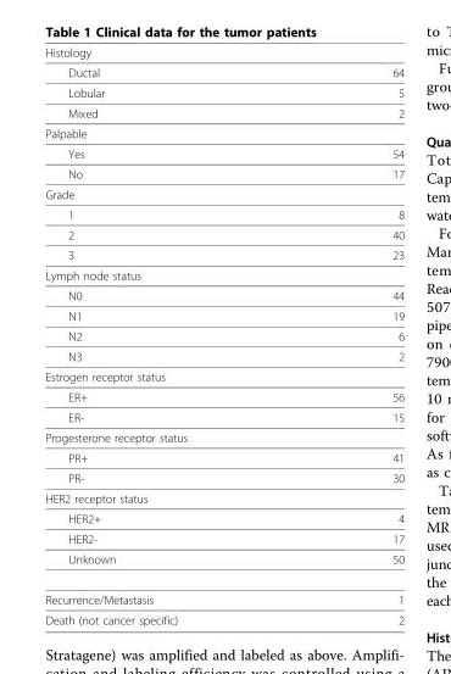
<table><thead><tr><td>Histology</td><td></td></tr></thead><tbody><tr><td>Ductal</td><td>64</td></tr><tr><td>Lobular</td><td>5</td></tr><tr><td>Mixed</td><td>2</td></tr><tr><td colspan="2">Palpable</td></tr><tr><td>Yes</td><td>54</td></tr><tr><td>No</td><td>17</td></tr><tr><td colspan="2">Grade</td></tr><tr><td>1</td><td>8</td></tr><tr><td>2</td><td>40</td></tr><tr><td>3</td><td>23</td></tr><tr><td colspan="2">Lymph node status</td></tr><tr><td>N0</td><td>44</td></tr><tr><td>N1</td><td>19</td></tr><tr><td>N2</td><td>6</td></tr><tr><td>N3</td><td>2</td></tr><tr><td colspan="2">Estrogen receptor status</td></tr><tr><td>ER+</td><td>56</td></tr><tr><td>ER-</td><td>15</td></tr><tr><td colspan="2">Progesterone receptor status</td></tr><tr><td>PR+</td><td>41</td></tr><tr><td>PR-</td><td>30</td></tr><tr><td colspan="2">HER2 receptor status</td></tr><tr><td>HER2+</td><td>4</td></tr><tr><td>HER2-</td><td>17</td></tr><tr><td>Unknown</td><td>50</td></tr><tr><td>Recurrence/Metastasis</td><td>1</td></tr><tr><td>Death (not cancer specific)</td><td>2</td></tr></tbody></table>